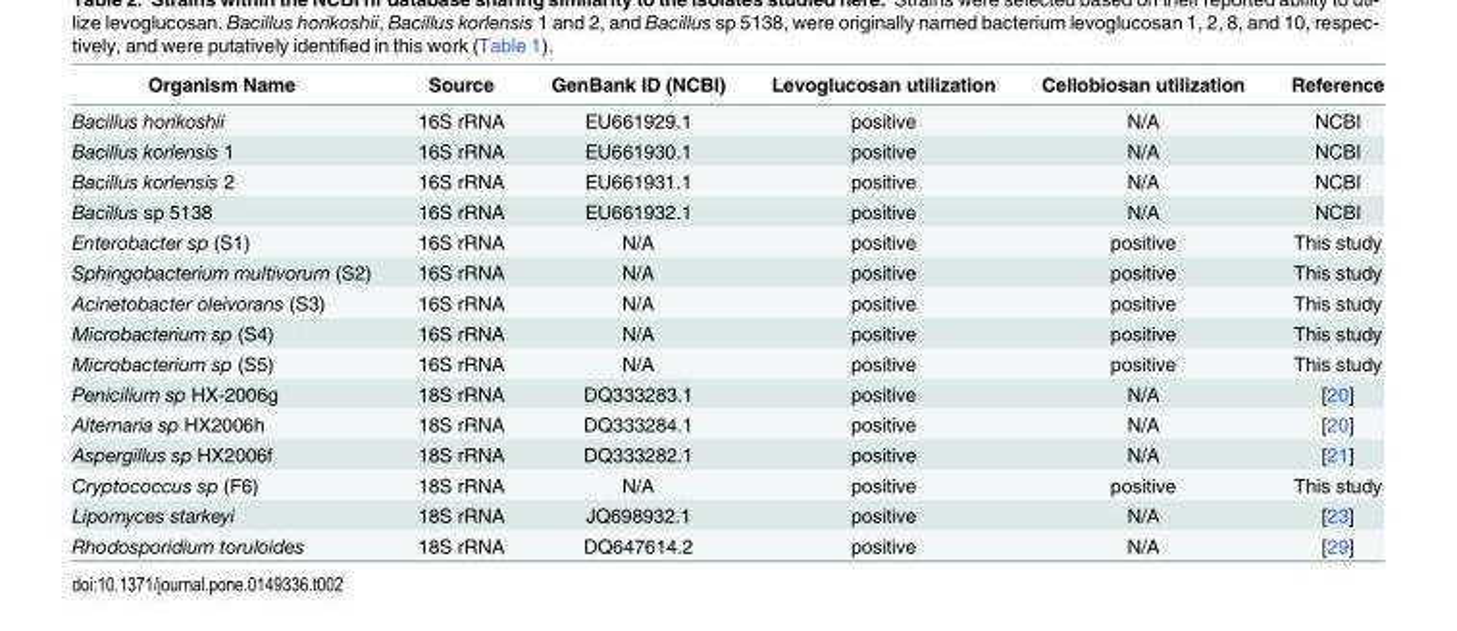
<table><thead><tr><td>Organism Name</td><td>Source</td><td>GenBank ID (NCBI)</td><td>Levoglucosan utilization</td><td>Cellobiosan utilization</td><td>Reference</td></tr></thead><tbody><tr><td>Bacillus horikoshii</td><td>16S rRNA</td><td>EU661929.1</td><td>positive</td><td>N/A</td><td>NCBI</td></tr><tr><td>Bacillus korlensis 1</td><td>16S rRNA</td><td>EU661930.1</td><td>positive</td><td>N/A</td><td>NCBI</td></tr><tr><td>Bacillus korlensis 2</td><td>16S rRNA</td><td>EU661931.1</td><td>positive</td><td>N/A</td><td>NCBI</td></tr><tr><td>Bacillus sp 5138</td><td>16S rRNA</td><td>EU661932.1</td><td>positive</td><td>N/A</td><td>NCBI</td></tr><tr><td>Enterobacter sp (S1)</td><td>16S rRNA</td><td>N/A</td><td>positive</td><td>positive</td><td>This study</td></tr><tr><td>Sphingobacterium multivorum (S2)</td><td>16S rRNA</td><td>N/A</td><td>positive</td><td>positive</td><td>This study</td></tr><tr><td>Acinetobacter oleivorans (S3)</td><td>16S rRNA</td><td>N/A</td><td>positive</td><td>positive</td><td>This study</td></tr><tr><td>Microbacterium sp (S4)</td><td>16S rRNA</td><td>N/A</td><td>positive</td><td>positive</td><td>This study</td></tr><tr><td>Microbacterium sp (S5)</td><td>16S rRNA</td><td>N/A</td><td>positive</td><td>positive</td><td>This study</td></tr><tr><td>Penicilium sp HX-2006g</td><td>18S rRNA</td><td>DQ333283.1</td><td>positive</td><td>N/A</td><td>[20]</td></tr><tr><td>Alternaria sp HX2006h</td><td>18S rRNA</td><td>DQ333284.1</td><td>positive</td><td>N/A</td><td>[20]</td></tr><tr><td>Aspergillus sp HX2006f</td><td>18S rRNA</td><td>DQ333282.1</td><td>positive</td><td>N/A</td><td>[21]</td></tr><tr><td>Cryptococcus sp (F6)</td><td>18S rRNA</td><td>N/A</td><td>positive</td><td>positive</td><td>This study</td></tr><tr><td>Lipomyces starkeyi</td><td>18S rRNA</td><td>JQ698932.1</td><td>positive</td><td>N/A</td><td>[23]</td></tr><tr><td>Rhodosporidium toruloides</td><td>18S rRNA</td><td>DQ647614.2</td><td>positive</td><td>N/A</td><td>[29]</td></tr></tbody></table>